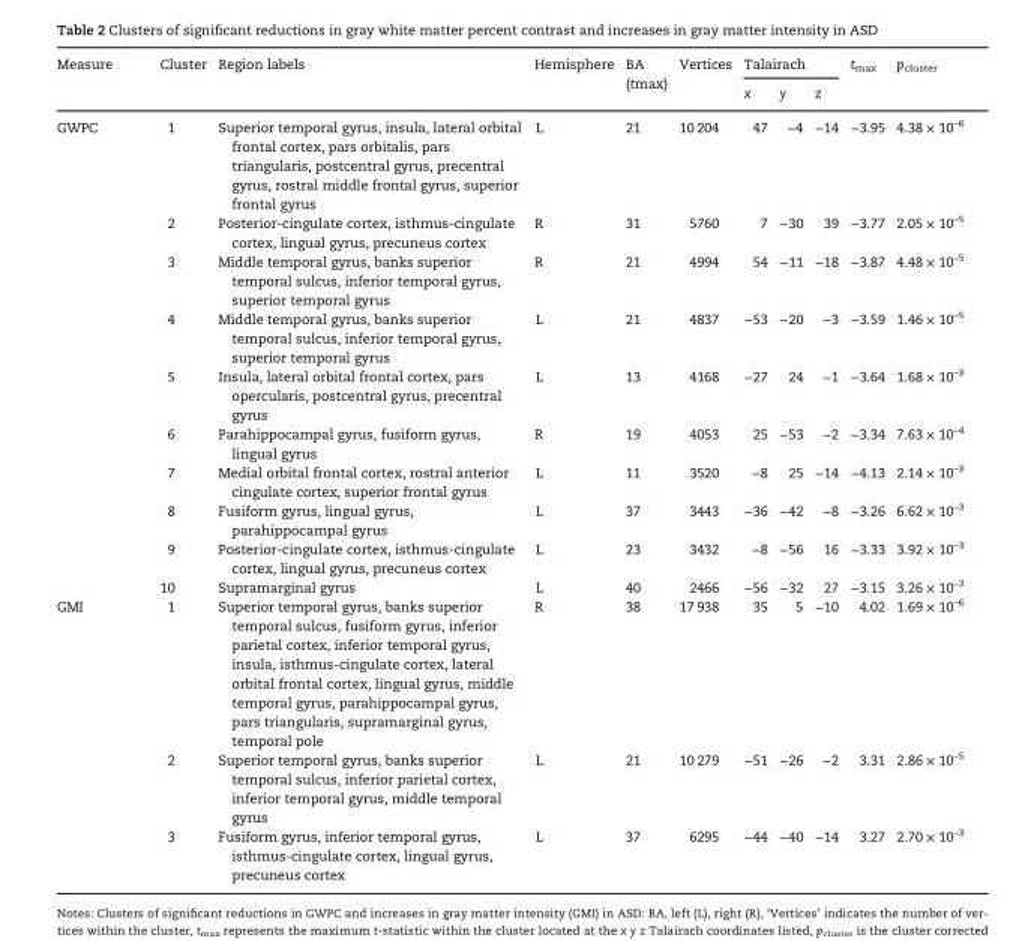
<table><thead><tr><td rowspan="2">Measure</td><td rowspan="2">Cluster</td><td rowspan="2">Region labels</td><td rowspan="2">Hemisphere</td><td rowspan="2">BA (tmax)</td><td rowspan="2">Vertices</td><td colspan="3">Talairach</td><td rowspan="2">t<sub>max</sub></td><td rowspan="2">p<sub>cluster</sub></td></tr><tr><td>x</td><td>y</td><td>z</td></tr></thead><tbody><tr><td rowspan="10">GWPC</td><td>1</td><td>Superior temporal gyrus, insula, lateral orbital frontal cortex, pars orbitalis, pars triangularis, postcentral gyrus, precentral gyrus, rostral middle frontal gyrus, superior frontal gyrus</td><td>L</td><td>21</td><td>10 204</td><td>47</td><td>−4</td><td>−14</td><td>−3.95</td><td>4.38 × 10<sup>–6</sup></td></tr><tr><td>2</td><td>Posterior-cingulate cortex, isthmus-cingulate cortex, lingual gyrus, precuneus cortex</td><td>R</td><td>31</td><td>5760</td><td>7</td><td>−30</td><td>39</td><td>−3.77</td><td>2.05 × 10<sup>–5</sup></td></tr><tr><td>3</td><td>Middle temporal gyrus, banks superior temporal sulcus, inferior temporal gyrus, superior temporal gyrus</td><td>R</td><td>21</td><td>4994</td><td>54</td><td>−11</td><td>−18</td><td>−3.87</td><td>4.48 × 10<sup>–5</sup></td></tr><tr><td>4</td><td>Middle temporal gyrus, banks superior temporal sulcus, inferior temporal gyrus, superior temporal gyrus</td><td>L</td><td>21</td><td>4837</td><td>−53</td><td>−20</td><td>−3</td><td>−3.59</td><td>1.46 × 10<sup>–5</sup></td></tr><tr><td>5</td><td>Insula, lateral orbital frontal cortex, pars opercularis, postcentral gyrus, precentral gyrus</td><td>L</td><td>13</td><td>4168</td><td>−27</td><td>24</td><td>−1</td><td>−3.64</td><td>1.68 × 10<sup>–3</sup></td></tr><tr><td>6</td><td>Parahippocampal gyrus, fusiform gyrus, lingual gyrus</td><td>R</td><td>19</td><td>4053</td><td>25</td><td>−53</td><td>−2</td><td>−3.34</td><td>7.63 × 10<sup>–4</sup></td></tr><tr><td>7</td><td>Medial orbital frontal cortex, rostral anterior cingulate cortex, superior frontal gyrus</td><td>L</td><td>11</td><td>3520</td><td>−8</td><td>25</td><td>−14</td><td>−4.13</td><td>2.14 × 10<sup>–3</sup></td></tr><tr><td>8</td><td>Fusiform gyrus, lingual gyrus, parahippocampal gyrus</td><td>L</td><td>37</td><td>3443</td><td>−36</td><td>−42</td><td>−8</td><td>−3.26</td><td>6.62 × 10<sup>–3</sup></td></tr><tr><td>9</td><td>Posterior-cingulate cortex, isthmus-cingulate cortex, lingual gyrus, precuneus cortex</td><td>L</td><td>23</td><td>3432</td><td>−8</td><td>−56</td><td>16</td><td>−3.33</td><td>3.92 × 10<sup>–3</sup></td></tr><tr><td>10</td><td>Supramarginal gyrus</td><td>L</td><td>40</td><td>2466</td><td>−56</td><td>−32</td><td>27</td><td>−3.15</td><td>3.26 × 10<sup>–3</sup></td></tr><tr><td rowspan="3">GMI</td><td>1</td><td>Superior temporal gyrus, banks superior temporal sulcus, fusiform gyrus, inferior parietal cortex, inferior temporal gyrus, insula, isthmus-cingulate cortex, lateral orbital frontal cortex, lingual gyrus, middle temporal gyrus, parahippocampal gyrus, pars triangularis, supramarginal gyrus, temporal pole</td><td>R</td><td>38</td><td>17 938</td><td>35</td><td>5</td><td>−10</td><td>4.02</td><td>1.69 × 10<sup>–6</sup></td></tr><tr><td>2</td><td>Superior temporal gyrus, banks superior temporal sulcus, inferior parietal cortex, inferior temporal gyrus, middle temporal gyrus</td><td>L</td><td>21</td><td>10 279</td><td>−51</td><td>−26</td><td>−2</td><td>3.31</td><td>2.86 × 10<sup>–5</sup></td></tr><tr><td>3</td><td>Fusiform gyrus, inferior temporal gyrus, isthmus-cingulate cortex, lingual gyrus, precuneus cortex</td><td>L</td><td>37</td><td>6295</td><td>−44</td><td>−40</td><td>−14</td><td>3.27</td><td>2.70 × 10<sup>–3</sup></td></tr></tbody></table>